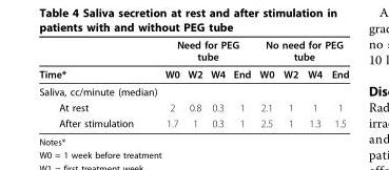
<table><thead><tr><td rowspan="2">Time*</td><td colspan="4">Need for PEG tube</td><td colspan="4">No need for PEG tube</td></tr><tr><td>W0</td><td>W2</td><td>W4</td><td>End</td><td>W0</td><td>W2</td><td>W4</td><td>End</td></tr></thead><tbody><tr><td colspan="9">Saliva, cc/minute (median)</td></tr><tr><td>At rest</td><td>2</td><td>0.8</td><td>0.3</td><td>1</td><td>2.1</td><td>1</td><td>1</td><td>1</td></tr><tr><td>After stimulation</td><td>1.7</td><td>1</td><td>0.3</td><td>1</td><td>2.5</td><td>1</td><td>1.3</td><td>1.5</td></tr></tbody></table>